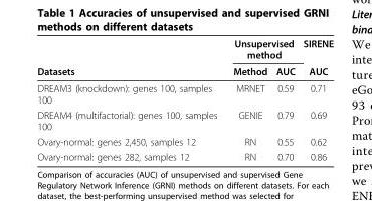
<table><thead><tr><td rowspan="2">Datasets</td><td colspan="2">Unsupervised method</td><td rowspan="2">SIRENE AUC</td></tr><tr><td>Method</td><td>AUC</td></tr></thead><tbody><tr><td>DREAM3 (knockdown): genes 100, samples 100</td><td>MRNET</td><td>0.59</td><td>0.71</td></tr><tr><td>DREAM4 (multifactorial): genes 100, samples 100</td><td>GENIE</td><td>0.79</td><td>0.69</td></tr><tr><td>Ovary-normal: genes 2,450, samples 12</td><td>RN</td><td>0.55</td><td>0.62</td></tr><tr><td>Ovary-normal: genes 282, samples 12</td><td>RN</td><td>0.70</td><td>0.86</td></tr></tbody></table>